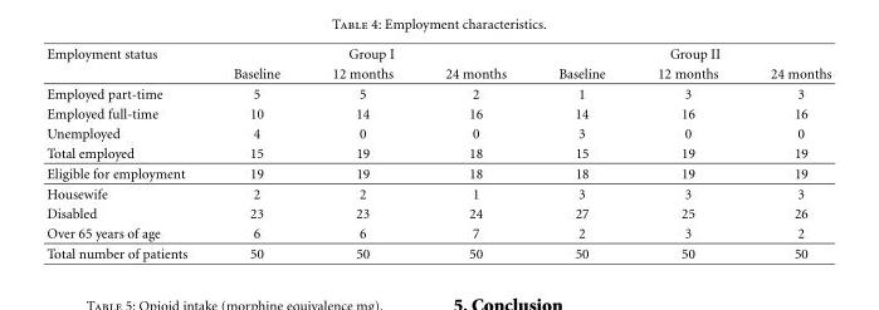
<table><thead><tr><td rowspan="2">Employment status</td><td colspan="3">Group I</td><td colspan="3">Group II</td></tr><tr><td>Baseline</td><td>12 months</td><td>24 months</td><td>Baseline</td><td>12 months</td><td>24 months</td></tr></thead><tbody><tr><td>Employed part-time</td><td>5</td><td>5</td><td>2</td><td>1</td><td>3</td><td>3</td></tr><tr><td>Employed full-time</td><td>10</td><td>14</td><td>16</td><td>14</td><td>16</td><td>16</td></tr><tr><td>Unemployed</td><td>4</td><td>0</td><td>0</td><td>3</td><td>0</td><td>0</td></tr><tr><td>Total employed</td><td>15</td><td>19</td><td>18</td><td>15</td><td>19</td><td>19</td></tr><tr><td>Eligible for employment</td><td>19</td><td>19</td><td>18</td><td>18</td><td>19</td><td>19</td></tr><tr><td>Housewife</td><td>2</td><td>2</td><td>1</td><td>3</td><td>3</td><td>3</td></tr><tr><td>Disabled</td><td>23</td><td>23</td><td>24</td><td>27</td><td>25</td><td>26</td></tr><tr><td>Over 65 years of age</td><td>6</td><td>6</td><td>7</td><td>2</td><td>3</td><td>2</td></tr><tr><td>Total number of patients</td><td>50</td><td>50</td><td>50</td><td>50</td><td>50</td><td>50</td></tr></tbody></table>